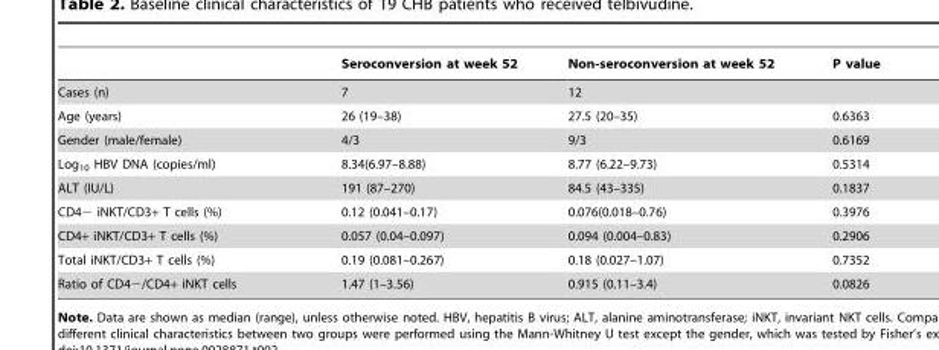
<table><thead><tr><td></td><td>Seroconversion at week 52</td><td>Non-seroconversion at week 52</td><td>P value</td></tr></thead><tbody><tr><td>Cases (n)</td><td>7</td><td>12</td><td></td></tr><tr><td>Age (years)</td><td>26 (19–38)</td><td>27.5 (20–35)</td><td>0.6363</td></tr><tr><td>Gender (male/female)</td><td>4/3</td><td>9/3</td><td>0.6169</td></tr><tr><td>Log<sub>10</sub> HBV DNA (copies/ml)</td><td>8.34(6.97–8.88)</td><td>8.77 (6.22–9.73)</td><td>0.5314</td></tr><tr><td>ALT (IU/L)</td><td>191 (87–270)</td><td>84.5 (43–335)</td><td>0.1837</td></tr><tr><td>CD4− iNKT/CD3+ T cells (%)</td><td>0.12 (0.041–0.17)</td><td>0.076(0.018–0.76)</td><td>0.3976</td></tr><tr><td>CD4+ iNKT/CD3+ T cells (%)</td><td>0.057 (0.04–0.097)</td><td>0.094 (0.004–0.83)</td><td>0.2906</td></tr><tr><td>Total iNKT/CD3+ T cells (%)</td><td>0.19 (0.081–0.267)</td><td>0.18 (0.027–1.07)</td><td>0.7352</td></tr><tr><td>Ratio of CD4−/CD4+ iNKT cells</td><td>1.47 (1–3.56)</td><td>0.915 (0.11–3.4)</td><td>0.0826</td></tr></tbody></table>